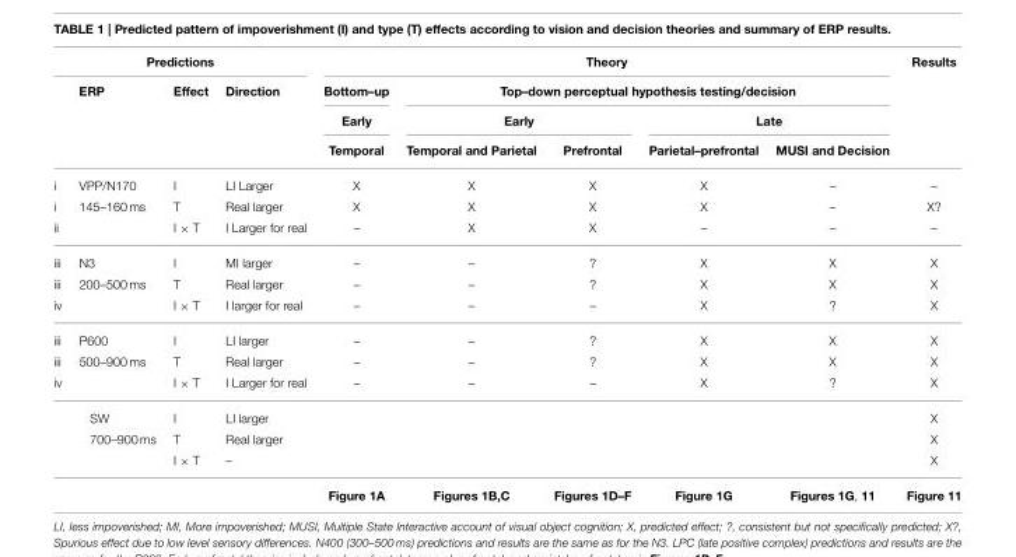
<table><thead><tr><td colspan="4">Predictions</td><td colspan="5">Theory</td><td rowspan="4">Results</td></tr><tr><td rowspan="3"></td><td rowspan="3">ERP</td><td rowspan="3">Effect</td><td rowspan="3">Direction</td><td rowspan="3">Bottom–up Early Temporal</td><td colspan="4">Top–down perceptual hypothesis testing/decision</td></tr><tr><td colspan="2">Early</td><td colspan="2">Late</td></tr><tr><td>Temporal and Parietal</td><td>Prefrontal</td><td>Parietal–prefrontal</td><td>MUSI and Decision</td></tr></thead><tbody><tr><td>i</td><td>VPP/N170</td><td>I</td><td>LI Larger</td><td>X</td><td>X</td><td>X</td><td>X</td><td>–</td><td>–</td></tr><tr><td>i</td><td>145–160 ms</td><td>T</td><td>Real larger</td><td>X</td><td>X</td><td>X</td><td>X</td><td>–</td><td>X?</td></tr><tr><td>ii</td><td></td><td>I × T</td><td>I Larger for real</td><td>–</td><td>X</td><td>X</td><td>–</td><td>–</td><td>–</td></tr><tr><td>iii</td><td>N3</td><td>I</td><td>MI larger</td><td>–</td><td>–</td><td>?</td><td>X</td><td>X</td><td>X</td></tr><tr><td>iii</td><td>200–500 ms</td><td>T</td><td>Real larger</td><td>–</td><td>–</td><td>?</td><td>X</td><td>X</td><td>X</td></tr><tr><td>iv</td><td></td><td>I × T</td><td>I larger for real</td><td>–</td><td>–</td><td>–</td><td>X</td><td>?</td><td>X</td></tr><tr><td>iii</td><td>P600</td><td>I</td><td>LI larger</td><td>–</td><td>–</td><td>?</td><td>X</td><td>X</td><td>X</td></tr><tr><td>iii</td><td>500–900 ms</td><td>T</td><td>Real larger</td><td>–</td><td>–</td><td>?</td><td>X</td><td>X</td><td>X</td></tr><tr><td rowspan="5">iv</td><td></td><td>I × T</td><td>I Larger for real</td><td>–</td><td>–</td><td>–</td><td>X</td><td>?</td><td>X</td></tr><tr><td>SW</td><td>I</td><td>LI larger</td><td></td><td></td><td></td><td></td><td></td><td>X</td></tr><tr><td>700–900 ms</td><td>T</td><td>Real larger</td><td></td><td></td><td></td><td></td><td></td><td>X</td></tr><tr><td></td><td>I × T</td><td>–</td><td></td><td></td><td></td><td></td><td></td><td>X</td></tr><tr><td colspan="3"></td><td>Figure 1A</td><td>Figures 1B,C</td><td>Figures 1D–F</td><td>Figure 1G</td><td>Figures 1G, 11</td><td>Figure 11</td></tr></tbody></table>